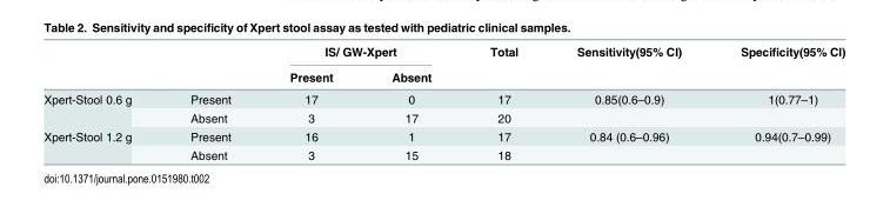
<table><thead><tr><td rowspan="2"></td><td rowspan="2"></td><td colspan="2">IS/ GW-Xpert</td><td rowspan="2">Total</td><td rowspan="2">Sensitivity(95% CI)</td><td rowspan="2">Specificity(95% CI)</td></tr><tr><td>Present</td><td>Absent</td></tr></thead><tbody><tr><td rowspan="2">Xpert-Stool 0.6 g</td><td>Present</td><td>17</td><td>0</td><td>17</td><td>0.85(0.6–0.9)</td><td>1(0.77–1)</td></tr><tr><td>Absent</td><td>3</td><td>17</td><td>20</td><td></td><td></td></tr><tr><td rowspan="2">Xpert-Stool 1.2 g</td><td>Present</td><td>16</td><td>1</td><td>17</td><td>0.84 (0.6–0.96)</td><td>0.94(0.7–0.99)</td></tr><tr><td>Absent</td><td>3</td><td>15</td><td>18</td><td></td><td></td></tr></tbody></table>